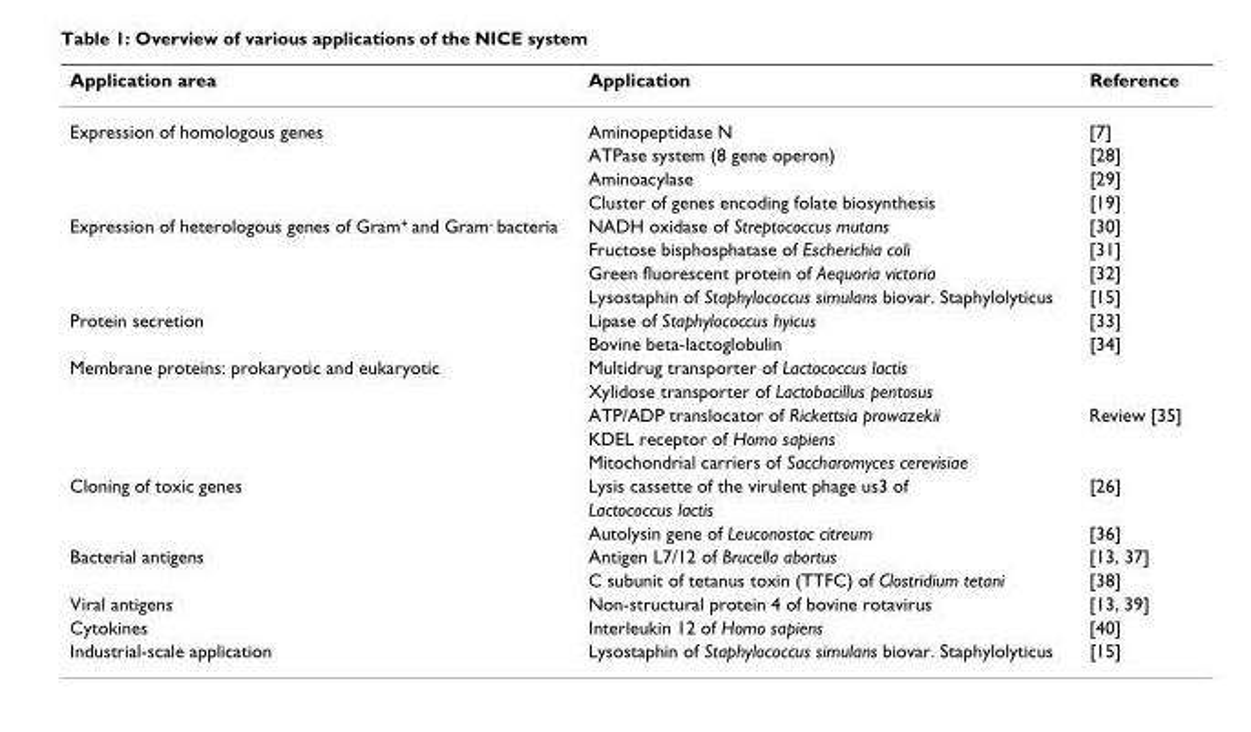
<table><thead><tr><td>Application area</td><td>Application</td><td>Reference</td></tr></thead><tbody><tr><td rowspan="4">Expression of homologous genes</td><td>Aminopeptidase N</td><td>[7]</td></tr><tr><td>ATPase system (8 gene operon)</td><td>[28]</td></tr><tr><td>Aminoacylase</td><td>[29]</td></tr><tr><td>Cluster of genes encoding folate biosynthesis</td><td>[19]</td></tr><tr><td rowspan="4">Expression of heterologous genes of Gram<sup>+</sup> and Gram<sup>-</sup> bacteria</td><td>NADH oxidase of Streptococcus mutans</td><td>[30]</td></tr><tr><td>Fructose bisphosphatase of Escherichia coli</td><td>[31]</td></tr><tr><td>Green fluorescent protein of Aequoria victoria</td><td>[32]</td></tr><tr><td>Lysostaphin of Staphylococcus simulans biovar. Staphylolyticus</td><td>[15]</td></tr><tr><td rowspan="2">Protein secretion</td><td>Lipase of Staphylococcus hyicus</td><td>[33]</td></tr><tr><td>Bovine beta-lactoglobulin</td><td>[34]</td></tr><tr><td rowspan="5">Membrane proteins: prokaryotic and eukaryotic</td><td>Multidrug transporter of Lactococcus lactis</td><td></td></tr><tr><td>Xylidose transporter of Lactobacillus pentosus</td><td></td></tr><tr><td>ATP/ADP translocator of Rickettsia prowazekii</td><td>Review [35]</td></tr><tr><td>KDEL receptor of Homo sapiens</td><td></td></tr><tr><td>Mitochondrial carriers of Saccharomyces cerevisiae</td><td></td></tr><tr><td rowspan="3">Cloning of toxic genes</td><td>Lysis cassette of the virulent phage us3 of</td><td>[26]</td></tr><tr><td>Lactococcus lactis</td><td></td></tr><tr><td>Autolysin gene of Leuconostoc citreum</td><td>[36]</td></tr><tr><td rowspan="2">Bacterial antigens</td><td>Antigen L7/12 of Brucella abortus</td><td>[13, 37]</td></tr><tr><td>C subunit of tetanus toxin (TTFC) of Clostridium tetani</td><td>[38]</td></tr><tr><td>Viral antigens</td><td>Non-structural protein 4 of bovine rotavirus</td><td>[13, 39]</td></tr><tr><td>Cytokines</td><td>Interleukin 12 of Homo sapiens</td><td>[40]</td></tr><tr><td>Industrial-scale application</td><td>Lysostaphin of Staphylococcus simulans biovar. Staphylolyticus</td><td>[15]</td></tr></tbody></table>